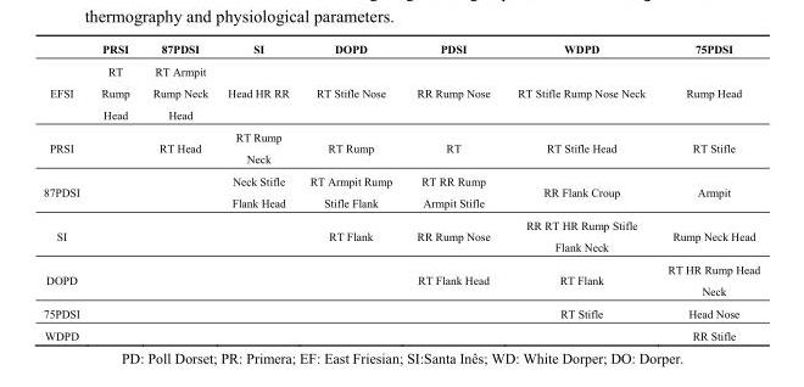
<table><thead><tr><td></td><td>PRSI</td><td>87PDSI</td><td>SI</td><td>DOPD</td><td>PDSI</td><td>WDPD</td><td>75PDSI</td></tr></thead><tbody><tr><td>EFSI</td><td>RT Rump Head</td><td>RT Armpit Rump Neck Head</td><td>Head HR RR</td><td>RT Stifle Nose</td><td>RR Rump Nose</td><td>RT Stifle Rump Nose Neck</td><td>Rump Head</td></tr><tr><td>PRSI</td><td></td><td>RT Head</td><td>RT Rump Neck</td><td>RT Rump</td><td>RT</td><td>RT Stifle Head</td><td>RT Stifle</td></tr><tr><td>87PDSI</td><td></td><td></td><td>Neck Stifle Flank Head</td><td>RT Armpit Rump Stifle Flank</td><td>RT RR Rump Armpit Stifle</td><td>RR Flank Croup</td><td>Armpit</td></tr><tr><td>SI</td><td></td><td></td><td></td><td>RT Flank</td><td>RR Rump Nose</td><td>RR RT HR Rump Stifle Flank Neck</td><td>Rump Neck Head</td></tr><tr><td>DOPD</td><td></td><td></td><td></td><td></td><td>RT Flank Head</td><td>RT Flank</td><td>RT HR Rump Head Neck</td></tr><tr><td>75PDSI</td><td></td><td></td><td></td><td></td><td></td><td>RT Stifle</td><td>Head Nose</td></tr><tr><td>WDPD</td><td></td><td></td><td></td><td></td><td></td><td></td><td>RR Stifle</td></tr></tbody></table>